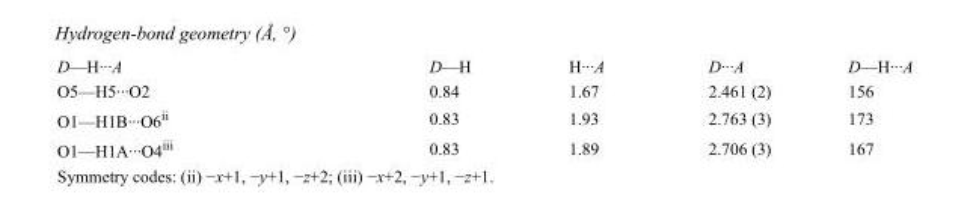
<table><tbody><tr><td>D—H···A</td><td>D—H</td><td>H···A</td><td>D···A</td><td>D—H···A</td></tr><tr><td>O5—H5···O2</td><td>0.84</td><td>1.67</td><td>2.461 (2)</td><td>156</td></tr><tr><td>O1—H1B···O6<sup>ii</sup></td><td>0.83</td><td>1.93</td><td>2.763 (3)</td><td>173</td></tr><tr><td>O1—H1A···O4<sup>iii</sup></td><td>0.83</td><td>1.89</td><td>2.706 (3)</td><td>167</td></tr></tbody></table>